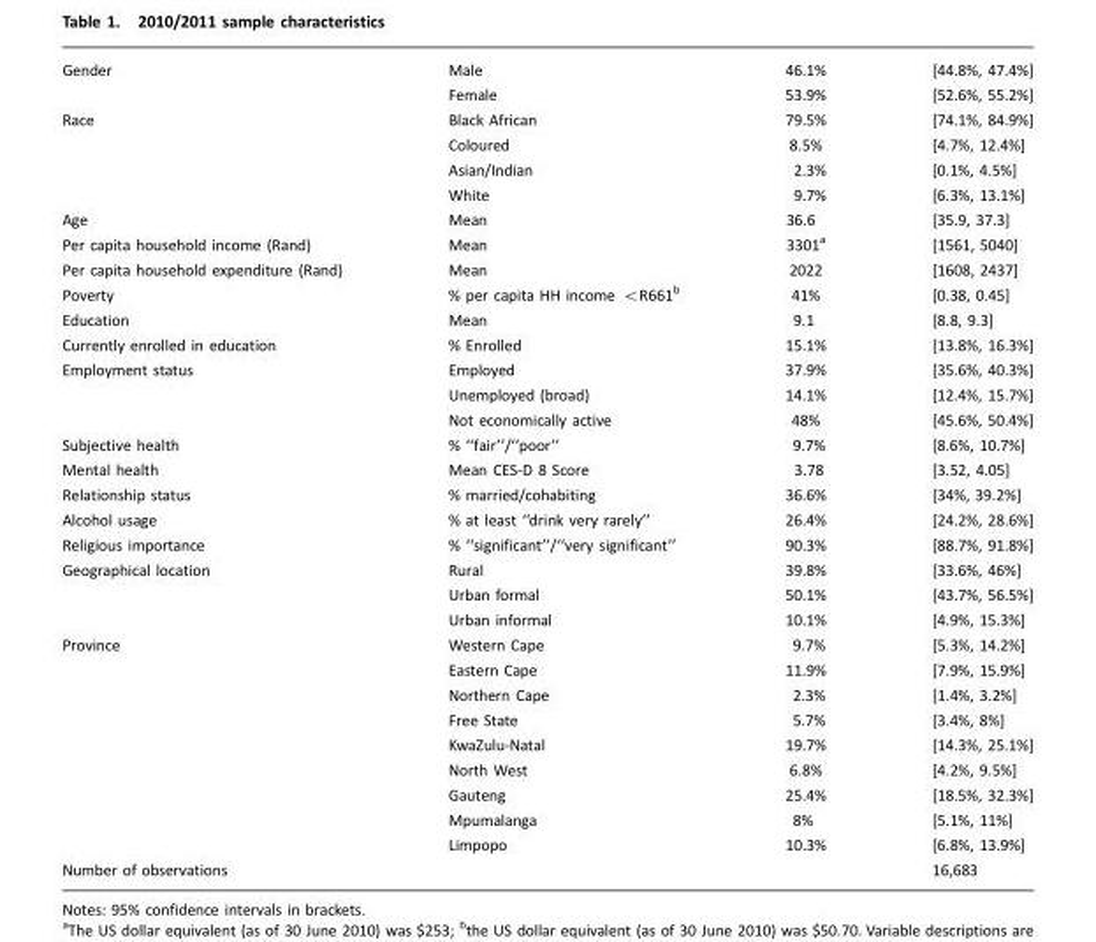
<table><tbody><tr><td rowspan="2">Gender</td><td>Male</td><td>46.1%</td><td>[44.8%, 47.4%]</td></tr><tr><td>Female</td><td>53.9%</td><td>[52.6%, 55.2%]</td></tr><tr><td rowspan="4">Race</td><td>Black African</td><td>79.5%</td><td>[74.1%, 84.9%]</td></tr><tr><td>Coloured</td><td>8.5%</td><td>[4.7%, 12.4%]</td></tr><tr><td>Asian/Indian</td><td>2.3%</td><td>[0.1%, 4.5%]</td></tr><tr><td>White</td><td>9.7%</td><td>[6.3%, 13.1%]</td></tr><tr><td>Age</td><td>Mean</td><td>36.6</td><td>[35.9, 37.3]</td></tr><tr><td>Per capita household income (Rand)</td><td>Mean</td><td>3301<sup>a</sup></td><td>[1561, 5040]</td></tr><tr><td>Per capita household expenditure (Rand)</td><td>Mean</td><td>2022</td><td>[1608, 2437]</td></tr><tr><td>Poverty</td><td>% per capita HH income &lt;R661<sup>b</sup></td><td>41%</td><td>[0.38, 0.45]</td></tr><tr><td>Education</td><td>Mean</td><td>9.1</td><td>[8.8, 9.3]</td></tr><tr><td>Currently enrolled in education</td><td>% Enrolled</td><td>15.1%</td><td>[13.8%, 16.3%]</td></tr><tr><td rowspan="3">Employment status</td><td>Employed</td><td>37.9%</td><td>[35.6%, 40.3%]</td></tr><tr><td>Unemployed (broad)</td><td>14.1%</td><td>[12.4%, 15.7%]</td></tr><tr><td>Not economically active</td><td>48%</td><td>[45.6%, 50.4%]</td></tr><tr><td>Subjective health</td><td>% ‘‘fair’’/‘‘poor’’</td><td>9.7%</td><td>[8.6%, 10.7%]</td></tr><tr><td>Mental health</td><td>Mean CES-D 8 Score</td><td>3.78</td><td>[3.52, 4.05]</td></tr><tr><td>Relationship status</td><td>% married/cohabiting</td><td>36.6%</td><td>[34%, 39.2%]</td></tr><tr><td>Alcohol usage</td><td>% at least ‘‘drink very rarely’’</td><td>26.4%</td><td>[24.2%, 28.6%]</td></tr><tr><td>Religious importance</td><td>% ‘‘significant’’/‘‘very significant’’</td><td>90.3%</td><td>[88.7%, 91.8%]</td></tr><tr><td rowspan="3">Geographical location</td><td>Rural</td><td>39.8%</td><td>[33.6%, 46%]</td></tr><tr><td>Urban formal</td><td>50.1%</td><td>[43.7%, 56.5%]</td></tr><tr><td>Urban informal</td><td>10.1%</td><td>[4.9%, 15.3%]</td></tr><tr><td rowspan="9">Province</td><td>Western Cape</td><td>9.7%</td><td>[5.3%, 14.2%]</td></tr><tr><td>Eastern Cape</td><td>11.9%</td><td>[7.9%, 15.9%]</td></tr><tr><td>Northern Cape</td><td>2.3%</td><td>[1.4%, 3.2%]</td></tr><tr><td>Free State</td><td>5.7%</td><td>[3.4%, 8%]</td></tr><tr><td>KwaZulu-Natal</td><td>19.7%</td><td>[14.3%, 25.1%]</td></tr><tr><td>North West</td><td>6.8%</td><td>[4.2%, 9.5%]</td></tr><tr><td>Gauteng</td><td>25.4%</td><td>[18.5%, 32.3%]</td></tr><tr><td>Mpumalanga</td><td>8%</td><td>[5.1%, 11%]</td></tr><tr><td>Limpopo</td><td>10.3%</td><td>[6.8%, 13.9%]</td></tr><tr><td>Number of observations</td><td></td><td></td><td>16,683</td></tr></tbody></table>